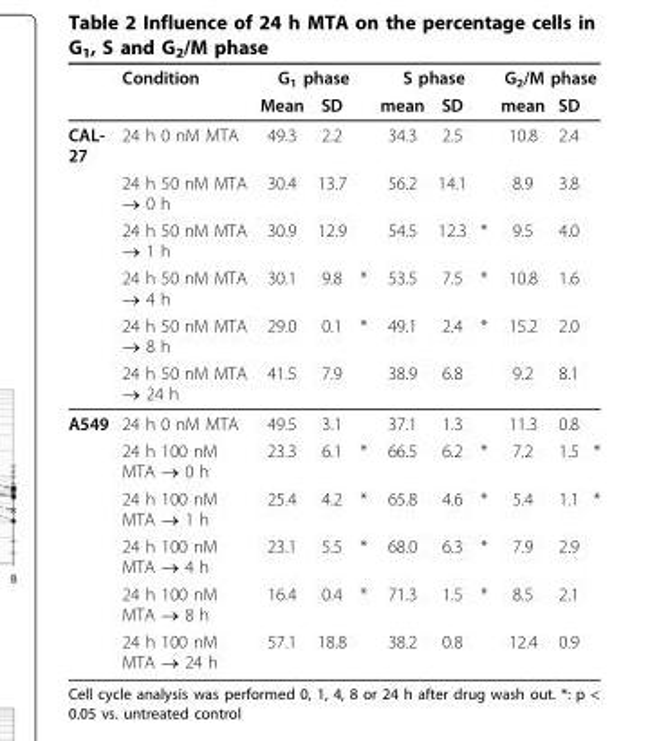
<table><thead><tr><td rowspan="2"></td><td rowspan="2">Condition</td><td colspan="3">G<sub>1</sub> phase</td><td colspan="3">S phase</td><td colspan="3">G<sub>2</sub>/M phase</td></tr><tr><td>Mean</td><td>SD</td><td></td><td>mean</td><td>SD</td><td></td><td>mean</td><td>SD</td><td></td></tr></thead><tbody><tr><td rowspan="6">CAL- 27</td><td>24 h 0 nM MTA</td><td>49.3</td><td>2.2</td><td></td><td>34.3</td><td>2.5</td><td></td><td>10.8</td><td>2.4</td><td></td></tr><tr><td>24 h 50 nM MTA → 0 h</td><td>30.4</td><td>13.7</td><td></td><td>56.2</td><td>14.1</td><td></td><td>8.9</td><td>3.8</td><td></td></tr><tr><td>24 h 50 nM MTA → 1 h</td><td>30.9</td><td>12.9</td><td></td><td>54.5</td><td>12.3</td><td>*</td><td>9.5</td><td>4.0</td><td></td></tr><tr><td>24 h 50 nM MTA → 4 h</td><td>30.1</td><td>9.8</td><td>*</td><td>53.5</td><td>7.5</td><td>*</td><td>10.8</td><td>1.6</td><td></td></tr><tr><td>24 h 50 nM MTA → 8 h</td><td>29.0</td><td>0.1</td><td>*</td><td>49.1</td><td>2.4</td><td>*</td><td>15.2</td><td>2.0</td><td></td></tr><tr><td>24 h 50 nM MTA → 24 h</td><td>41.5</td><td>7.9</td><td></td><td>38.9</td><td>6.8</td><td></td><td>9.2</td><td>8.1</td><td></td></tr><tr><td rowspan="6">A549</td><td>24 h 0 nM MTA</td><td>49.5</td><td>3.1</td><td></td><td>37.1</td><td>1.3</td><td></td><td>11.3</td><td>0.8</td><td></td></tr><tr><td>24 h 100 nM MTA → 0 h</td><td>23.3</td><td>6.1</td><td>*</td><td>66.5</td><td>6.2</td><td>*</td><td>7.2</td><td>1.5</td><td>*</td></tr><tr><td>24 h 100 nM MTA → 1 h</td><td>25.4</td><td>4.2</td><td>*</td><td>65.8</td><td>4.6</td><td>*</td><td>5.4</td><td>1.1</td><td>*</td></tr><tr><td>24 h 100 nM MTA → 4 h</td><td>23.1</td><td>5.5</td><td>*</td><td>68.0</td><td>6.3</td><td>*</td><td>7.9</td><td>2.9</td><td></td></tr><tr><td>24 h 100 nM MTA → 8 h</td><td>16.4</td><td>0.4</td><td>*</td><td>71.3</td><td>1.5</td><td>*</td><td>8.5</td><td>2.1</td><td></td></tr><tr><td>24 h 100 nM MTA → 24 h</td><td>57.1</td><td>18.8</td><td></td><td>38.2</td><td>0.8</td><td></td><td>12.4</td><td>0.9</td><td></td></tr></tbody></table>